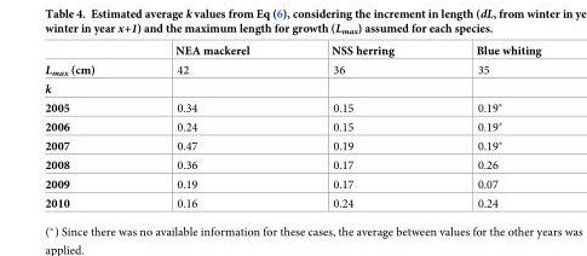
<table><thead><tr><td></td><td>NEA mackerel</td><td>NSS herring</td><td>Blue whiting</td></tr></thead><tbody><tr><td>L<sub>max</sub> (cm)</td><td>42</td><td>36</td><td>35</td></tr><tr><td colspan="4">k</td></tr><tr><td>2005</td><td>0.34</td><td>0.15</td><td>0.19*</td></tr><tr><td>2006</td><td>0.24</td><td>0.15</td><td>0.19*</td></tr><tr><td>2007</td><td>0.47</td><td>0.19</td><td>0.19*</td></tr><tr><td>2008</td><td>0.36</td><td>0.17</td><td>0.26</td></tr><tr><td>2009</td><td>0.19</td><td>0.17</td><td>0.07</td></tr><tr><td>2010</td><td>0.16</td><td>0.24</td><td>0.24</td></tr></tbody></table>